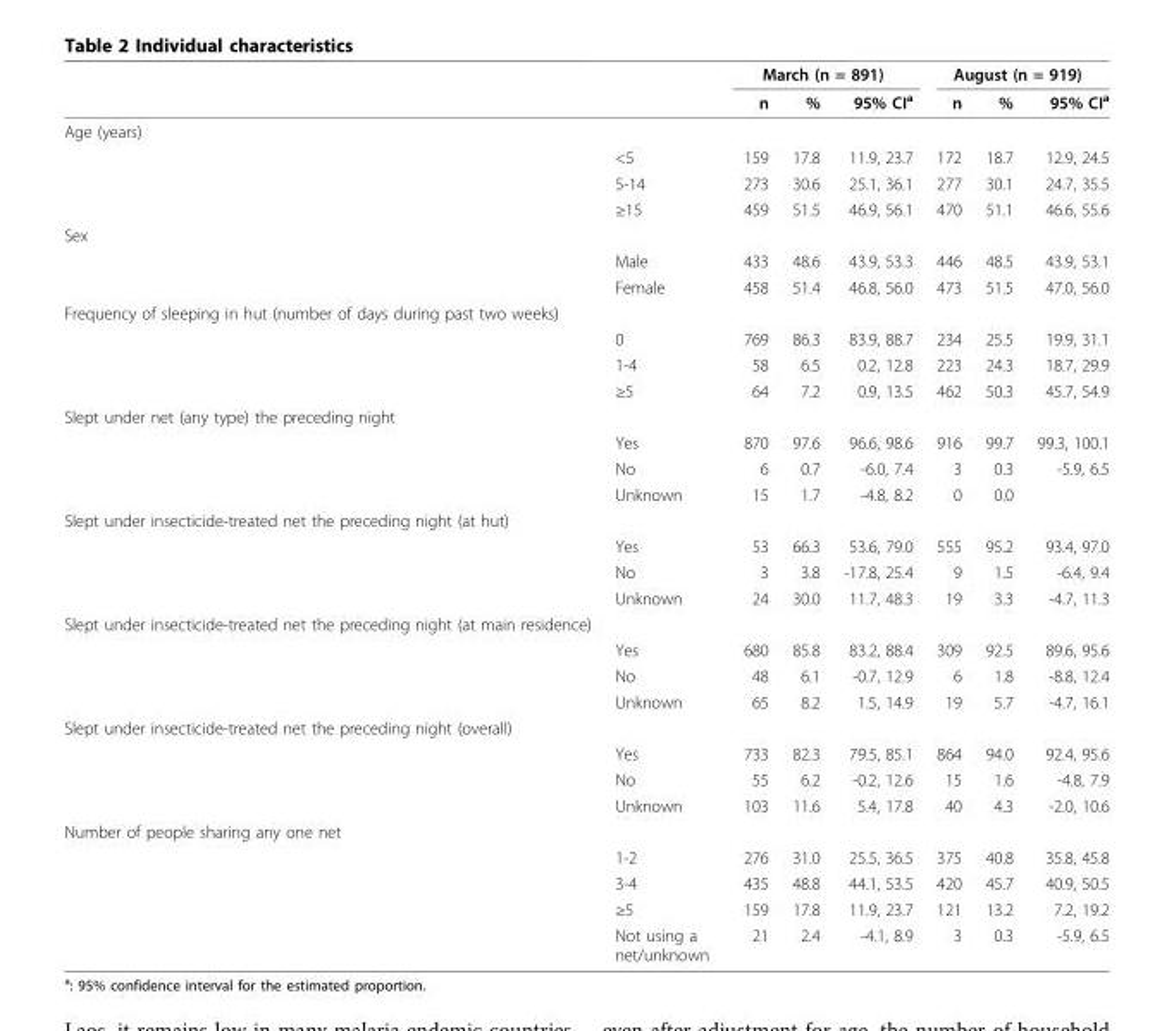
<table><thead><tr><td rowspan="2"></td><td rowspan="2"></td><td colspan="3">March (n = 891)</td><td colspan="3">August (n = 919)</td></tr><tr><td>n</td><td>%</td><td>95% CI<sup>a</sup></td><td>n</td><td>%</td><td>95% CI<sup>a</sup></td></tr></thead><tbody><tr><td colspan="8">Age (years)</td></tr><tr><td></td><td>&lt;5</td><td>159</td><td>17.8</td><td>11.9, 23.7</td><td>172</td><td>18.7</td><td>12.9, 24.5</td></tr><tr><td></td><td>5-14</td><td>273</td><td>30.6</td><td>25.1, 36.1</td><td>277</td><td>30.1</td><td>24.7, 35.5</td></tr><tr><td></td><td>≥15</td><td>459</td><td>51.5</td><td>46.9, 56.1</td><td>470</td><td>51.1</td><td>46.6, 55.6</td></tr><tr><td colspan="8">Sex</td></tr><tr><td></td><td>Male</td><td>433</td><td>48.6</td><td>43.9, 53.3</td><td>446</td><td>48.5</td><td>43.9, 53.1</td></tr><tr><td></td><td>Female</td><td>458</td><td>51.4</td><td>46.8, 56.0</td><td>473</td><td>51.5</td><td>47.0, 56.0</td></tr><tr><td colspan="8">Frequency of sleeping in hut (number of days during past two weeks)</td></tr><tr><td></td><td>0</td><td>769</td><td>86.3</td><td>83.9, 88.7</td><td>234</td><td>25.5</td><td>19.9, 31.1</td></tr><tr><td></td><td>1-4</td><td>58</td><td>6.5</td><td>0.2, 12.8</td><td>223</td><td>24.3</td><td>18.7, 29.9</td></tr><tr><td></td><td>≥5</td><td>64</td><td>7.2</td><td>0.9, 13.5</td><td>462</td><td>50.3</td><td>45.7, 54.9</td></tr><tr><td colspan="8">Slept under net (any type) the preceding night</td></tr><tr><td></td><td>Yes</td><td>870</td><td>97.6</td><td>96.6, 98.6</td><td>916</td><td>99.7</td><td>99.3, 100.1</td></tr><tr><td></td><td>No</td><td>6</td><td>0.7</td><td>-6.0, 7.4</td><td>3</td><td>0.3</td><td>-5.9, 6.5</td></tr><tr><td></td><td>Unknown</td><td>15</td><td>1.7</td><td>-4.8, 8.2</td><td>0</td><td>0.0</td><td></td></tr><tr><td colspan="8">Slept under insecticide-treated net the preceding night (at hut)</td></tr><tr><td></td><td>Yes</td><td>53</td><td>66.3</td><td>53.6, 79.0</td><td>555</td><td>95.2</td><td>93.4, 97.0</td></tr><tr><td></td><td>No</td><td>3</td><td>3.8</td><td>-17.8, 25.4</td><td>9</td><td>1.5</td><td>-6.4, 9.4</td></tr><tr><td></td><td>Unknown</td><td>24</td><td>30.0</td><td>11.7, 48.3</td><td>19</td><td>3.3</td><td>-4.7, 11.3</td></tr><tr><td colspan="8">Slept under insecticide-treated net the preceding night (at main residence)</td></tr><tr><td></td><td>Yes</td><td>680</td><td>85.8</td><td>83.2, 88.4</td><td>309</td><td>92.5</td><td>89.6, 95.6</td></tr><tr><td></td><td>No</td><td>48</td><td>6.1</td><td>-0.7, 12.9</td><td>6</td><td>1.8</td><td>-8.8, 12.4</td></tr><tr><td></td><td>Unknown</td><td>65</td><td>8.2</td><td>1.5, 14.9</td><td>19</td><td>5.7</td><td>-4.7, 16.1</td></tr><tr><td colspan="8">Slept under insecticide-treated net the preceding night (overall)</td></tr><tr><td></td><td>Yes</td><td>733</td><td>82.3</td><td>79.5, 85.1</td><td>864</td><td>94.0</td><td>92.4, 95.6</td></tr><tr><td></td><td>No</td><td>55</td><td>6.2</td><td>-0.2, 12.6</td><td>15</td><td>1.6</td><td>-4.8, 7.9</td></tr><tr><td></td><td>Unknown</td><td>103</td><td>11.6</td><td>5.4, 17.8</td><td>40</td><td>4.3</td><td>-2.0, 10.6</td></tr><tr><td colspan="8">Number of people sharing any one net</td></tr><tr><td></td><td>1-2</td><td>276</td><td>31.0</td><td>25.5, 36.5</td><td>375</td><td>40.8</td><td>35.8, 45.8</td></tr><tr><td></td><td>3-4</td><td>435</td><td>48.8</td><td>44.1, 53.5</td><td>420</td><td>45.7</td><td>40.9, 50.5</td></tr><tr><td></td><td>≥5</td><td>159</td><td>17.8</td><td>11.9, 23.7</td><td>121</td><td>13.2</td><td>7.2, 19.2</td></tr><tr><td></td><td>Not using a net/unknown</td><td>21</td><td>2.4</td><td>-4.1, 8.9</td><td>3</td><td>0.3</td><td>-5.9, 6.5</td></tr></tbody></table>